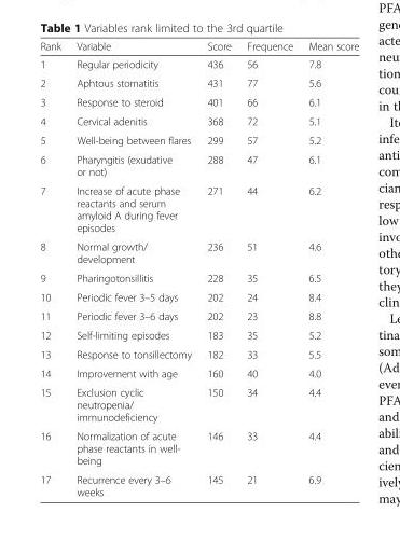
<table><thead><tr><td>Rank</td><td>Variable</td><td>Score</td><td>Frequence</td><td>Mean score</td></tr></thead><tbody><tr><td>1</td><td>Regular periodicity</td><td>436</td><td>56</td><td>7.8</td></tr><tr><td>2</td><td>Aphtous stomatitis</td><td>431</td><td>77</td><td>5.6</td></tr><tr><td>3</td><td>Response to steroid</td><td>401</td><td>66</td><td>6.1</td></tr><tr><td>4</td><td>Cervical adenitis</td><td>368</td><td>72</td><td>5.1</td></tr><tr><td>5</td><td>Well-being between flares</td><td>299</td><td>57</td><td>5.2</td></tr><tr><td>6</td><td>Pharyngitis (exudative or not)</td><td>288</td><td>47</td><td>6.1</td></tr><tr><td>7</td><td>Increase of acute phase reactants and serum amyloid A during fever episodes</td><td>271</td><td>44</td><td>6.2</td></tr><tr><td>8</td><td>Normal growth/ development</td><td>236</td><td>51</td><td>4.6</td></tr><tr><td>9</td><td>Pharingotonsillitis</td><td>228</td><td>35</td><td>6.5</td></tr><tr><td>10</td><td>Periodic fever 3–5 days</td><td>202</td><td>24</td><td>8.4</td></tr><tr><td>11</td><td>Periodic fever 3–6 days</td><td>202</td><td>23</td><td>8.8</td></tr><tr><td>12</td><td>Self-limiting episodes</td><td>183</td><td>35</td><td>5.2</td></tr><tr><td>13</td><td>Response to tonsillectomy</td><td>182</td><td>33</td><td>5.5</td></tr><tr><td>14</td><td>Improvement with age</td><td>160</td><td>40</td><td>4.0</td></tr><tr><td>15</td><td>Exclusion cyclic neutropenia/ immunodeficiency</td><td>150</td><td>34</td><td>4.4</td></tr><tr><td>16</td><td>Normalization of acute phase reactants in well- being</td><td>146</td><td>33</td><td>4.4</td></tr><tr><td>17</td><td>Recurrence every 3–6 weeks</td><td>145</td><td>21</td><td>6.9</td></tr></tbody></table>